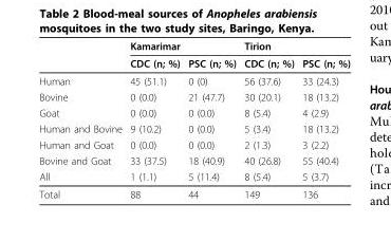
<table><thead><tr><td rowspan="2"></td><td colspan="2">Kamarimar</td><td colspan="2">Tirion</td></tr><tr><td>CDC (n; %)</td><td>PSC (n; %)</td><td>CDC (n; %)</td><td>PSC (n; %)</td></tr></thead><tbody><tr><td>Human</td><td>45 (51.1)</td><td>0 (0)</td><td>56 (37.6)</td><td>33 (24.3)</td></tr><tr><td>Bovine</td><td>0 (0.0)</td><td>21 (47.7)</td><td>30 (20.1)</td><td>18 (13.2)</td></tr><tr><td>Goat</td><td>0 (0.0)</td><td>0 (0.0)</td><td>8 (5.4)</td><td>4 (2.9)</td></tr><tr><td>Human and Bovine</td><td>9 (10.2)</td><td>0 (0.0)</td><td>5 (3.4)</td><td>18 (13.2)</td></tr><tr><td>Human and Goat</td><td>0 (0.0)</td><td>0 (0.0)</td><td>2 (1.3)</td><td>3 (2.2)</td></tr><tr><td>Bovine and Goat</td><td>33 (37.5)</td><td>18 (40.9)</td><td>40 (26.8)</td><td>55 (40.4)</td></tr><tr><td>All</td><td>1 (1.1)</td><td>5 (11.4)</td><td>8 (5.4)</td><td>5 (3.7)</td></tr><tr><td>Total</td><td>88</td><td>44</td><td>149</td><td>136</td></tr></tbody></table>